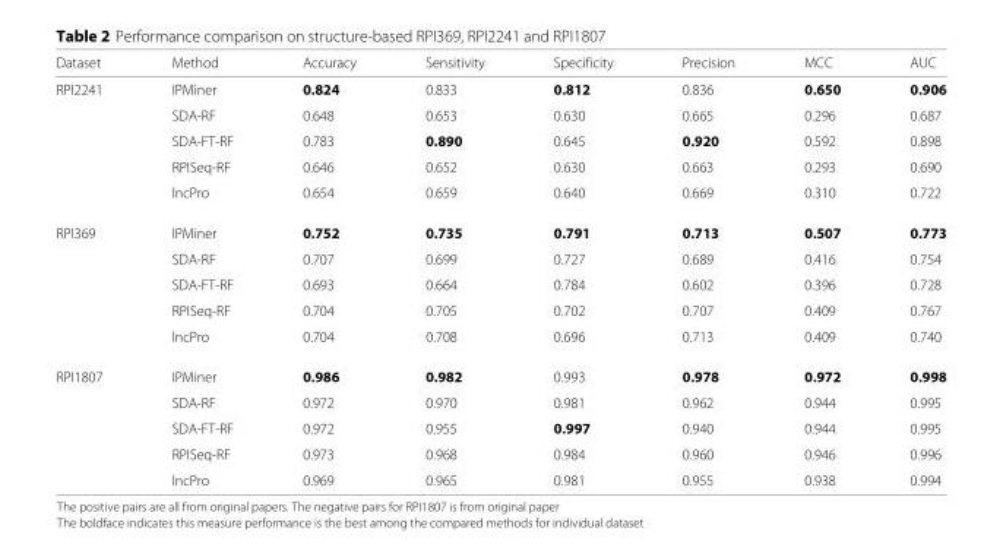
<table><thead><tr><td>Dataset</td><td>Method</td><td>Accuracy</td><td>Sensitivity</td><td>Specificity</td><td>Precision</td><td>MCC</td><td>AUC</td></tr></thead><tbody><tr><td rowspan="5">RPI2241</td><td>IPMiner</td><td>0.824</td><td>0.833</td><td>0.812</td><td>0.836</td><td>0.650</td><td>0.906</td></tr><tr><td>SDA-RF</td><td>0.648</td><td>0.653</td><td>0.630</td><td>0.665</td><td>0.296</td><td>0.687</td></tr><tr><td>SDA-FT-RF</td><td>0.783</td><td>0.890</td><td>0.645</td><td>0.920</td><td>0.592</td><td>0.898</td></tr><tr><td>RPISeq-RF</td><td>0.646</td><td>0.652</td><td>0.630</td><td>0.663</td><td>0.293</td><td>0.690</td></tr><tr><td>lncPro</td><td>0.654</td><td>0.659</td><td>0.640</td><td>0.669</td><td>0.310</td><td>0.722</td></tr><tr><td rowspan="5">RPI369</td><td>IPMiner</td><td>0.752</td><td>0.735</td><td>0.791</td><td>0.713</td><td>0.507</td><td>0.773</td></tr><tr><td>SDA-RF</td><td>0.707</td><td>0.699</td><td>0.727</td><td>0.689</td><td>0.416</td><td>0.754</td></tr><tr><td>SDA-FT-RF</td><td>0.693</td><td>0.664</td><td>0.784</td><td>0.602</td><td>0.396</td><td>0.728</td></tr><tr><td>RPISeq-RF</td><td>0.704</td><td>0.705</td><td>0.702</td><td>0.707</td><td>0.409</td><td>0.767</td></tr><tr><td>lncPro</td><td>0.704</td><td>0.708</td><td>0.696</td><td>0.713</td><td>0.409</td><td>0.740</td></tr><tr><td rowspan="5">RPI1807</td><td>IPMiner</td><td>0.986</td><td>0.982</td><td>0.993</td><td>0.978</td><td>0.972</td><td>0.998</td></tr><tr><td>SDA-RF</td><td>0.972</td><td>0.970</td><td>0.981</td><td>0.962</td><td>0.944</td><td>0.995</td></tr><tr><td>SDA-FT-RF</td><td>0.972</td><td>0.955</td><td>0.997</td><td>0.940</td><td>0.944</td><td>0.995</td></tr><tr><td>RPISeq-RF</td><td>0.973</td><td>0.968</td><td>0.984</td><td>0.960</td><td>0.946</td><td>0.996</td></tr><tr><td>lncPro</td><td>0.969</td><td>0.965</td><td>0.981</td><td>0.955</td><td>0.938</td><td>0.994</td></tr></tbody></table>